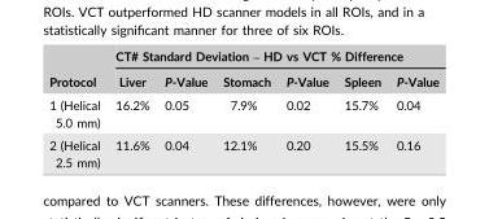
<table><thead><tr><td rowspan="2">Protocol</td><td colspan="6">CT# Standard Deviation – HD vs VCT % Difference</td></tr><tr><td>Liver</td><td>P-Value</td><td>Stomach</td><td>P-Value</td><td>Spleen</td><td>P-Value</td></tr></thead><tbody><tr><td>1 (Helical 5.0 mm)</td><td>16.2%</td><td>0.05</td><td>7.9%</td><td>0.02</td><td>15.7%</td><td>0.04</td></tr><tr><td>2 (Helical 2.5 mm)</td><td>11.6%</td><td>0.04</td><td>12.1%</td><td>0.20</td><td>15.5%</td><td>0.16</td></tr></tbody></table>